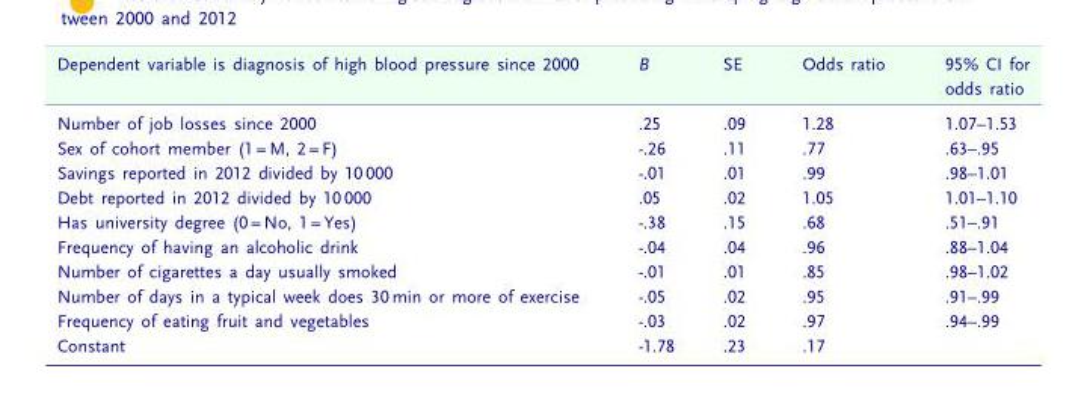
<table><thead><tr><td>Dependent variable is diagnosis of high blood pressure since 2000</td><td>B</td><td>SE</td><td>Odds ratio</td><td>95% CI for odds ratio</td></tr></thead><tbody><tr><td>Number of job losses since 2000</td><td>.25</td><td>.09</td><td>1.28</td><td>1.07–1.53</td></tr><tr><td>Sex of cohort member (1 = M, 2 = F)</td><td>-.26</td><td>.11</td><td>.77</td><td>.63–.95</td></tr><tr><td>Savings reported in 2012 divided by 10 000</td><td>-.01</td><td>.01</td><td>.99</td><td>.98–1.01</td></tr><tr><td>Debt reported in 2012 divided by 10 000</td><td>.05</td><td>.02</td><td>1.05</td><td>1.01–1.10</td></tr><tr><td>Has university degree (0 = No, 1 = Yes)</td><td>-.38</td><td>.15</td><td>.68</td><td>.51–.91</td></tr><tr><td>Frequency of having an alcoholic drink</td><td>-.04</td><td>.04</td><td>.96</td><td>.88–1.04</td></tr><tr><td>Number of cigarettes a day usually smoked</td><td>-.01</td><td>.01</td><td>.85</td><td>.98–1.02</td></tr><tr><td>Number of days in a typical week does 30 min or more of exercise</td><td>-.05</td><td>.02</td><td>.95</td><td>.91–.99</td></tr><tr><td>Frequency of eating fruit and vegetables</td><td>-.03</td><td>.02</td><td>.97</td><td>.94–.99</td></tr><tr><td>Constant</td><td>-1.78</td><td>.23</td><td>.17</td><td></td></tr></tbody></table>